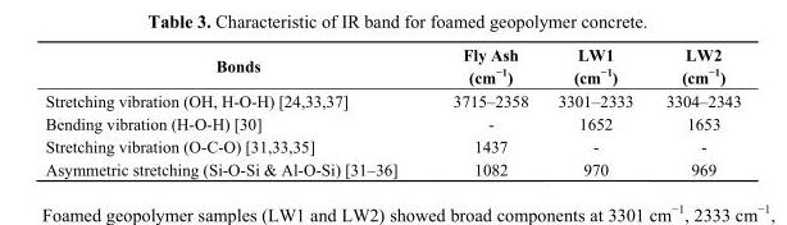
<table><thead><tr><td>Bonds</td><td>Fly Ash (cm<sup>−1</sup>)</td><td>LW1 (cm<sup>−1</sup>)</td><td>LW2 (cm<sup>−1</sup>)</td></tr></thead><tbody><tr><td>Stretching vibration (OH, H-O-H) [24,33,37]</td><td>3715–2358</td><td>3301–2333</td><td>3304–2343</td></tr><tr><td>Bending vibration (H-O-H) [30]</td><td>-</td><td>1652</td><td>1653</td></tr><tr><td>Stretching vibration (O-C-O) [31,33,35]</td><td>1437</td><td>-</td><td>-</td></tr><tr><td>Asymmetric stretching (Si-O-Si &amp; Al-O-Si) [31–36]</td><td>1082</td><td>970</td><td>969</td></tr></tbody></table>